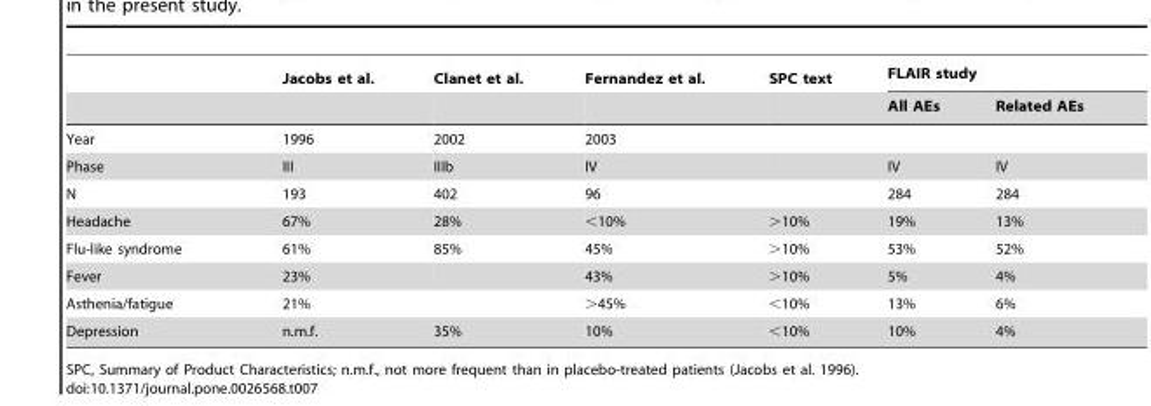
<table><thead><tr><td rowspan="2"></td><td rowspan="2">Jacobs et al.</td><td rowspan="2">Clanet et al.</td><td rowspan="2">Fernandez et al.</td><td rowspan="2">SPC text</td><td colspan="2">FLAIR study</td></tr><tr><td>All AEs</td><td>Related AEs</td></tr></thead><tbody><tr><td>Year</td><td>1996</td><td>2002</td><td>2003</td><td></td><td></td><td></td></tr><tr><td>Phase</td><td>III</td><td>IIIb</td><td>IV</td><td></td><td>IV</td><td>IV</td></tr><tr><td>N</td><td>193</td><td>402</td><td>96</td><td></td><td>284</td><td>284</td></tr><tr><td>Headache</td><td>67%</td><td>28%</td><td>&lt;10%</td><td>&gt;10%</td><td>19%</td><td>13%</td></tr><tr><td>Flu-like syndrome</td><td>61%</td><td>85%</td><td>45%</td><td>&gt;10%</td><td>53%</td><td>52%</td></tr><tr><td>Fever</td><td>23%</td><td></td><td>43%</td><td>&gt;10%</td><td>5%</td><td>4%</td></tr><tr><td>Asthenia/fatigue</td><td>21%</td><td></td><td>&gt;45%</td><td>&lt;10%</td><td>13%</td><td>6%</td></tr><tr><td>Depression</td><td>n.m.f.</td><td>35%</td><td>10%</td><td>&lt;10%</td><td>10%</td><td>4%</td></tr></tbody></table>